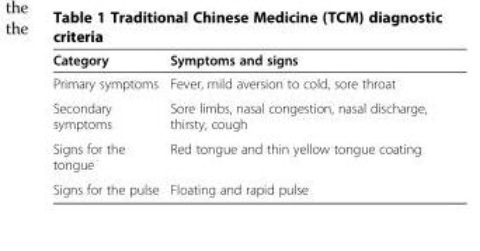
<table><thead><tr><td>Category</td><td>Symptoms and signs</td></tr></thead><tbody><tr><td>Primary symptoms</td><td>Fever, mild aversion to cold, sore throat</td></tr><tr><td>Secondary symptoms</td><td>Sore limbs, nasal congestion, nasal discharge, thirsty, cough</td></tr><tr><td>Signs for the tongue</td><td>Red tongue and thin yellow tongue coating</td></tr><tr><td>Signs for the pulse</td><td>Floating and rapid pulse</td></tr></tbody></table>